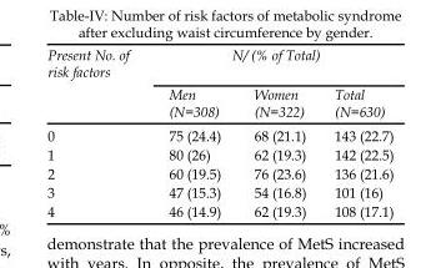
<table><thead><tr><td rowspan="2">Present No. of risk factors</td><td colspan="3">N/ (% of Total)</td></tr><tr><td>Men (N=308)</td><td>Women (N=322)</td><td>Total (N=630)</td></tr></thead><tbody><tr><td>0</td><td>75 (24.4)</td><td>68 (21.1)</td><td>143 (22.7)</td></tr><tr><td>1</td><td>80 (26)</td><td>62 (19.3)</td><td>142 (22.5)</td></tr><tr><td>2</td><td>60 (19.5)</td><td>76 (23.6)</td><td>136 (21.6)</td></tr><tr><td>3</td><td>47 (15.3)</td><td>54 (16.8)</td><td>101 (16)</td></tr><tr><td>4</td><td>46 (14.9)</td><td>62 (19.3)</td><td>108 (17.1)</td></tr></tbody></table>